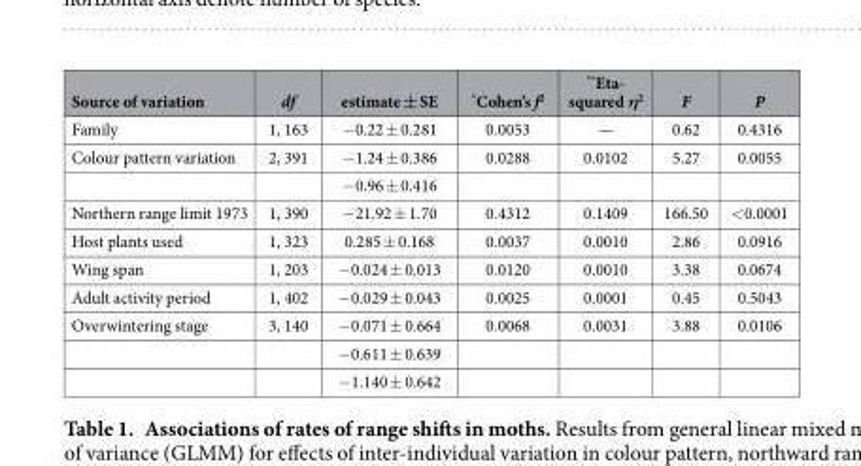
<table><thead><tr><td>Source of variation</td><td>df</td><td>estimate ± SE</td><td>*Cohen’s f<sup>2</sup></td><td>**Eta- squared η<sup>2</sup></td><td>F</td><td>P</td></tr></thead><tbody><tr><td>Family</td><td>1, 163</td><td>− 0.22 ± 0.281</td><td>0.0053</td><td>—</td><td>0.62</td><td>0.4316</td></tr><tr><td rowspan="2">Colour pattern variation</td><td>2, 391</td><td>− 1.24 ± 0.386</td><td>0.0288</td><td>0.0102</td><td>5.27</td><td>0.0055</td></tr><tr><td></td><td>− 0.96 ± 0.416</td><td></td><td></td><td></td><td></td></tr><tr><td>Northern range limit 1973</td><td>1, 390</td><td>− 21.92 ± 1.70</td><td>0.4312</td><td>0.1409</td><td>166.50</td><td>&lt; 0.0001</td></tr><tr><td>Host plants used</td><td>1, 323</td><td>0.285 ± 0.168</td><td>0.0037</td><td>0.0010</td><td>2.86</td><td>0.0916</td></tr><tr><td>Wing span</td><td>1, 203</td><td>− 0.024 ± 0.013</td><td>0.0120</td><td>0.0010</td><td>3.38</td><td>0.0674</td></tr><tr><td>Adult activity period</td><td>1, 402</td><td>− 0.029 ± 0.043</td><td>0.0025</td><td>0.0001</td><td>0.45</td><td>0.5043</td></tr><tr><td rowspan="3">Overwintering stage</td><td>3, 140</td><td>− 0.071 ± 0.664</td><td>0.0068</td><td>0.0031</td><td>3.88</td><td>0.0106</td></tr><tr><td></td><td>− 0.611 ± 0.639</td><td></td><td></td><td></td><td></td></tr><tr><td></td><td>− 1.140 ± 0.642</td><td></td><td></td><td></td><td></td></tr></tbody></table>